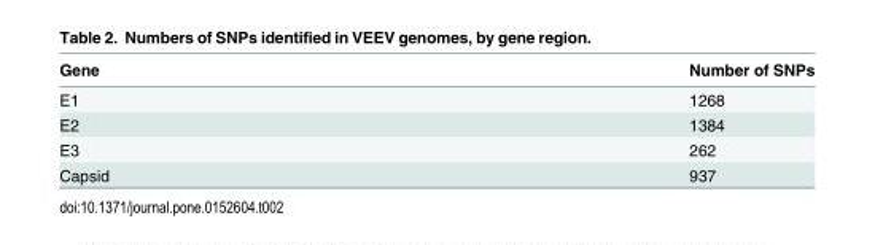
<table><thead><tr><td>Gene</td><td>Number of SNPs</td></tr></thead><tbody><tr><td>E1</td><td>1268</td></tr><tr><td>E2</td><td>1384</td></tr><tr><td>E3</td><td>262</td></tr><tr><td>Capsid</td><td>937</td></tr></tbody></table>